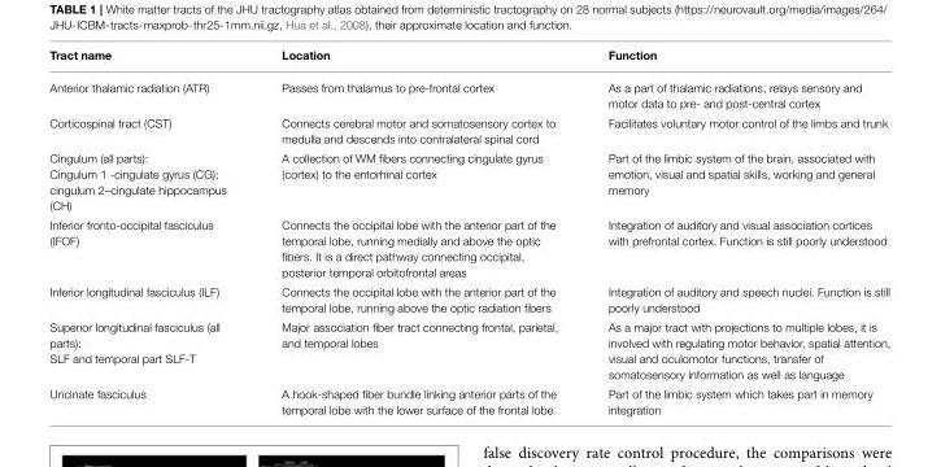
<table><thead><tr><td>Tract name</td><td>Location</td><td>Function</td></tr></thead><tbody><tr><td>Anterior thalamic radiation (ATR)</td><td>Passes from thalamus to pre-frontal cortex</td><td>As a part of thalamic radiations, relays sensory and motor data to pre- and post-central cortex</td></tr><tr><td>Corticospinal tract (CST)</td><td>Connects cerebral motor and somatosensory cortex to medulla and descends into contralateral spinal cord</td><td>Facilitates voluntary motor control of the limbs and trunk</td></tr><tr><td>Cingulum (all parts): Cingulum 1 -cingulate gyrus (CG); cingulum 2–cingulate hippocampus (CH)</td><td>A collection of WM fibers connecting cingulate gyrus (cortex) to the entorhinal cortex</td><td>Part of the limbic system of the brain, associated with emotion, visual and spatial skills, working and general memory</td></tr><tr><td>Inferior fronto-occipital fasciculus (IFOF)</td><td>Connects the occipital lobe with the anterior part of the temporal lobe, running medially and above the optic fibers. It is a direct pathway connecting occipital, posterior temporal orbitofrontal areas</td><td>Integration of auditory and visual association cortices with prefrontal cortex. Function is still poorly understood</td></tr><tr><td>Inferior longitudinal fasciculus (ILF)</td><td>Connects the occipital lobe with the anterior part of the temporal lobe, running above the optic radiation fibers</td><td>Integration of auditory and speech nuclei. Function is still poorly understood</td></tr><tr><td>Superior longitudinal fasciculus (all parts): SLF and temporal part SLF-T</td><td>Major association fiber tract connecting frontal, parietal, and temporal lobes</td><td>As a major tract with projections to multiple lobes, it is involved with regulating motor behavior, spatial attention, visual and oculomotor functions, transfer of somatosensory information as well as language</td></tr><tr><td>Uncinate fasciculus</td><td>A hook-shaped fiber bundle linking anterior parts of the temporal lobe with the lower surface of the frontal lobe</td><td>Part of the limbic system which takes part in memory integration</td></tr></tbody></table>